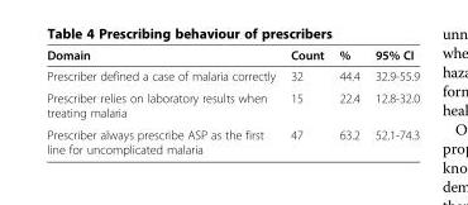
<table><thead><tr><td>Domain</td><td>Count</td><td>%</td><td>95% CI</td></tr></thead><tbody><tr><td>Prescriber defined a case of malaria correctly</td><td>32</td><td>44.4</td><td>32.9-55.9</td></tr><tr><td>Prescriber relies on laboratory results when treating malaria</td><td>15</td><td>22.4</td><td>12.8-32.0</td></tr><tr><td>Prescriber always prescribe ASP as the first line for uncomplicated malaria</td><td>47</td><td>63.2</td><td>52.1-74.3</td></tr></tbody></table>